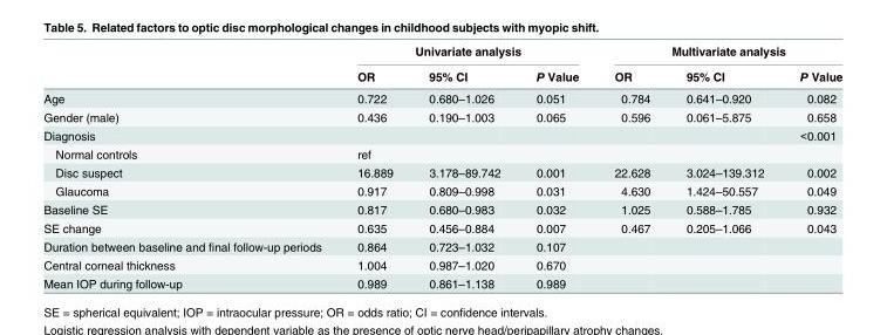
<table><thead><tr><td rowspan="2"></td><td colspan="3">Univariate analysis</td><td colspan="3">Multivariate analysis</td></tr><tr><td>OR</td><td>95% CI</td><td>P Value</td><td>OR</td><td>95% CI</td><td>P Value</td></tr></thead><tbody><tr><td>Age</td><td>0.722</td><td>0.680–1.026</td><td>0.051</td><td>0.784</td><td>0.641–0.920</td><td>0.082</td></tr><tr><td>Gender (male)</td><td>0.436</td><td>0.190–1.003</td><td>0.065</td><td>0.596</td><td>0.061–5.875</td><td>0.658</td></tr><tr><td>Diagnosis</td><td></td><td></td><td></td><td></td><td></td><td>&lt;0.001</td></tr><tr><td>Normal controls</td><td>ref</td><td></td><td></td><td></td><td></td><td></td></tr><tr><td>Disc suspect</td><td>16.889</td><td>3.178–89.742</td><td>0.001</td><td>22.628</td><td>3.024–139.312</td><td>0.002</td></tr><tr><td>Glaucoma</td><td>0.917</td><td>0.809–0.998</td><td>0.031</td><td>4.630</td><td>1.424–50.557</td><td>0.049</td></tr><tr><td>Baseline SE</td><td>0.817</td><td>0.680–0.983</td><td>0.032</td><td>1.025</td><td>0.588–1.785</td><td>0.932</td></tr><tr><td>SE change</td><td>0.635</td><td>0.456–0.884</td><td>0.007</td><td>0.467</td><td>0.205–1.066</td><td>0.043</td></tr><tr><td>Duration between baseline and final follow-up periods</td><td>0.864</td><td>0.723–1.032</td><td>0.107</td><td></td><td></td><td></td></tr><tr><td>Central corneal thickness</td><td>1.004</td><td>0.987–1.020</td><td>0.670</td><td></td><td></td><td></td></tr><tr><td>Mean IOP during follow-up</td><td>0.989</td><td>0.861–1.138</td><td>0.989</td><td></td><td></td><td></td></tr></tbody></table>